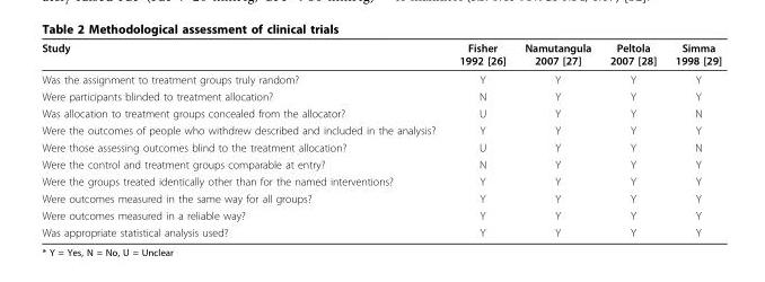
<table><thead><tr><td>Study</td><td>Fisher 1992 [26]</td><td>Namutangula 2007 [27]</td><td>Peltola 2007 [28]</td><td>Simma 1998 [29]</td></tr></thead><tbody><tr><td>Was the assignment to treatment groups truly random?</td><td>Y</td><td>Y</td><td>Y</td><td>Y</td></tr><tr><td>Were participants blinded to treatment allocation?</td><td>N</td><td>Y</td><td>Y</td><td>Y</td></tr><tr><td>Was allocation to treatment groups concealed from the allocator?</td><td>U</td><td>Y</td><td>Y</td><td>N</td></tr><tr><td>Were the outcomes of people who withdrew described and included in the analysis?</td><td>Y</td><td>Y</td><td>Y</td><td>Y</td></tr><tr><td>Were those assessing outcomes blind to the treatment allocation?</td><td>U</td><td>Y</td><td>Y</td><td>N</td></tr><tr><td>Were the control and treatment groups comparable at entry?</td><td>N</td><td>Y</td><td>Y</td><td>Y</td></tr><tr><td>Were the groups treated identically other than for the named interventions?</td><td>Y</td><td>Y</td><td>Y</td><td>Y</td></tr><tr><td>Were outcomes measured in the same way for all groups?</td><td>Y</td><td>Y</td><td>Y</td><td>Y</td></tr><tr><td>Were outcomes measured in a reliable way?</td><td>Y</td><td>Y</td><td>Y</td><td>Y</td></tr><tr><td>Was appropriate statistical analysis used?</td><td>Y</td><td>Y</td><td>Y</td><td>Y</td></tr></tbody></table>